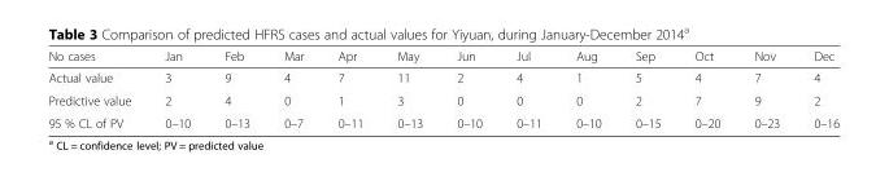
<table><thead><tr><td>No cases</td><td>Jan</td><td>Feb</td><td>Mar</td><td>Apr</td><td>May</td><td>Jun</td><td>Jul</td><td>Aug</td><td>Sep</td><td>Oct</td><td>Nov</td><td>Dec</td></tr></thead><tbody><tr><td>Actual value</td><td>3</td><td>9</td><td>4</td><td>7</td><td>11</td><td>2</td><td>4</td><td>1</td><td>5</td><td>4</td><td>7</td><td>4</td></tr><tr><td>Predictive value</td><td>2</td><td>4</td><td>0</td><td>1</td><td>3</td><td>0</td><td>0</td><td>0</td><td>2</td><td>7</td><td>9</td><td>2</td></tr><tr><td>95 % CL of PV</td><td>0–10</td><td>0–13</td><td>0–7</td><td>0–11</td><td>0–13</td><td>0–10</td><td>0–11</td><td>0–10</td><td>0–15</td><td>0–20</td><td>0–23</td><td>0–16</td></tr></tbody></table>